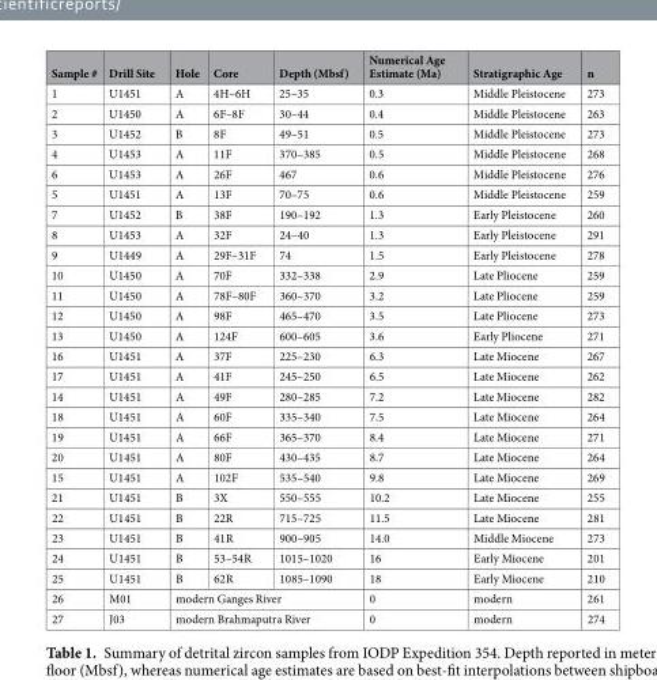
<table><thead><tr><td>Sample #</td><td>Drill Site</td><td>Hole</td><td>Core</td><td>Depth (Mbsf)</td><td>Numerical Age Estimate (Ma)</td><td>Stratigraphic Age</td><td>n</td></tr></thead><tbody><tr><td>1</td><td>U1451</td><td>A</td><td>4H–6H</td><td>25–35</td><td>0.3</td><td>Middle Pleistocene</td><td>273</td></tr><tr><td>2</td><td>U1450</td><td>A</td><td>6F–8F</td><td>30–44</td><td>0.4</td><td>Middle Pleistocene</td><td>263</td></tr><tr><td>3</td><td>U1452</td><td>B</td><td>8F</td><td>49–51</td><td>0.5</td><td>Middle Pleistocene</td><td>273</td></tr><tr><td>4</td><td>U1453</td><td>A</td><td>11F</td><td>370–385</td><td>0.5</td><td>Middle Pleistocene</td><td>268</td></tr><tr><td>6</td><td>U1453</td><td>A</td><td>26F</td><td>467</td><td>0.6</td><td>Middle Pleistocene</td><td>276</td></tr><tr><td>5</td><td>U1451</td><td>A</td><td>13F</td><td>70–75</td><td>0.6</td><td>Middle Pleistocene</td><td>259</td></tr><tr><td>7</td><td>U1452</td><td>B</td><td>38F</td><td>190–192</td><td>1.3</td><td>Early Pleistocene</td><td>260</td></tr><tr><td>8</td><td>U1453</td><td>A</td><td>32F</td><td>24–40</td><td>1.3</td><td>Early Pleistocene</td><td>291</td></tr><tr><td>9</td><td>U1449</td><td>A</td><td>29F–31F</td><td>74</td><td>1.5</td><td>Early Pleistocene</td><td>278</td></tr><tr><td>10</td><td>U1450</td><td>A</td><td>70F</td><td>332–338</td><td>2.9</td><td>Late Pliocene</td><td>259</td></tr><tr><td>11</td><td>U1450</td><td>A</td><td>78F–80F</td><td>360–370</td><td>3.2</td><td>Late Pliocene</td><td>259</td></tr><tr><td>12</td><td>U1450</td><td>A</td><td>98F</td><td>465–470</td><td>3.5</td><td>Late Pliocene</td><td>273</td></tr><tr><td>13</td><td>U1450</td><td>A</td><td>124F</td><td>600–605</td><td>3.6</td><td>Early Pliocene</td><td>271</td></tr><tr><td>16</td><td>U1451</td><td>A</td><td>37F</td><td>225–230</td><td>6.3</td><td>Late Miocene</td><td>267</td></tr><tr><td>17</td><td>U1451</td><td>A</td><td>41F</td><td>245–250</td><td>6.5</td><td>Late Miocene</td><td>262</td></tr><tr><td>14</td><td>U1451</td><td>A</td><td>49F</td><td>280–285</td><td>7.2</td><td>Late Miocene</td><td>282</td></tr><tr><td>18</td><td>U1451</td><td>A</td><td>60F</td><td>335–340</td><td>7.5</td><td>Late Miocene</td><td>264</td></tr><tr><td>19</td><td>U1451</td><td>A</td><td>66F</td><td>365–370</td><td>8.4</td><td>Late Miocene</td><td>271</td></tr><tr><td>20</td><td>U1451</td><td>A</td><td>80F</td><td>430–435</td><td>8.7</td><td>Late Miocene</td><td>264</td></tr><tr><td>15</td><td>U1451</td><td>A</td><td>102F</td><td>535–540</td><td>9.8</td><td>Late Miocene</td><td>269</td></tr><tr><td>21</td><td>U1451</td><td>B</td><td>3X</td><td>550–555</td><td>10.2</td><td>Late Miocene</td><td>255</td></tr><tr><td>22</td><td>U1451</td><td>B</td><td>22R</td><td>715–725</td><td>11.5</td><td>Late Miocene</td><td>281</td></tr><tr><td>23</td><td>U1451</td><td>B</td><td>41R</td><td>900–905</td><td>14.0</td><td>Middle Miocene</td><td>273</td></tr><tr><td>24</td><td>U1451</td><td>B</td><td>53–54R</td><td>1015–1020</td><td>16</td><td>Early Miocene</td><td>201</td></tr><tr><td>25</td><td>U1451</td><td>B</td><td>62R</td><td>1085–1090</td><td>18</td><td>Early Miocene</td><td>210</td></tr><tr><td>26</td><td>M01</td><td colspan="3">modern Ganges River</td><td>0</td><td>modern</td><td>261</td></tr><tr><td>27</td><td>J03</td><td colspan="3">modern Brahmaputra River</td><td>0</td><td>modern</td><td>274</td></tr></tbody></table>